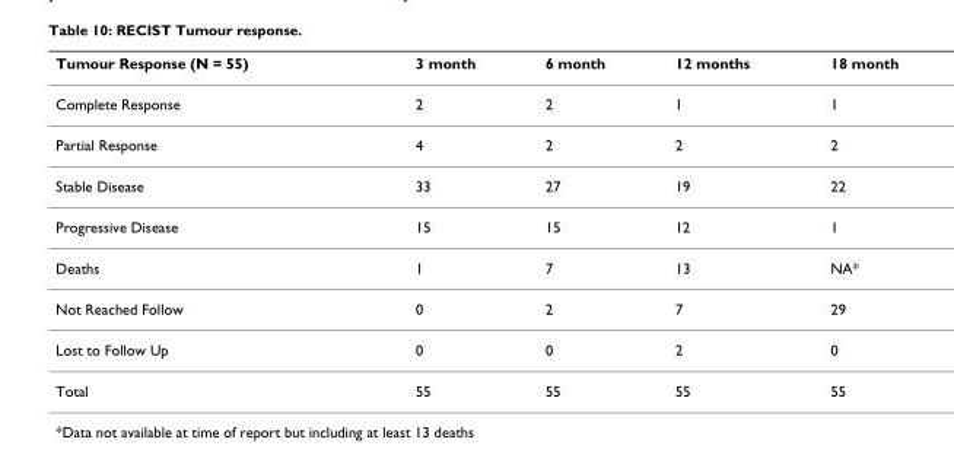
<table><thead><tr><td>Tumour Response (N = 55)</td><td>3 month</td><td>6 month</td><td>12 months</td><td>18 month</td></tr></thead><tbody><tr><td>Complete Response</td><td>2</td><td>2</td><td>1</td><td>1</td></tr><tr><td>Partial Response</td><td>4</td><td>2</td><td>2</td><td>2</td></tr><tr><td>Stable Disease</td><td>33</td><td>27</td><td>19</td><td>22</td></tr><tr><td>Progressive Disease</td><td>15</td><td>15</td><td>12</td><td>1</td></tr><tr><td>Deaths</td><td>1</td><td>7</td><td>13</td><td>NA*</td></tr><tr><td>Not Reached Follow</td><td>0</td><td>2</td><td>7</td><td>29</td></tr><tr><td>Lost to Follow Up</td><td>0</td><td>0</td><td>2</td><td>0</td></tr><tr><td>Total</td><td>55</td><td>55</td><td>55</td><td>55</td></tr></tbody></table>